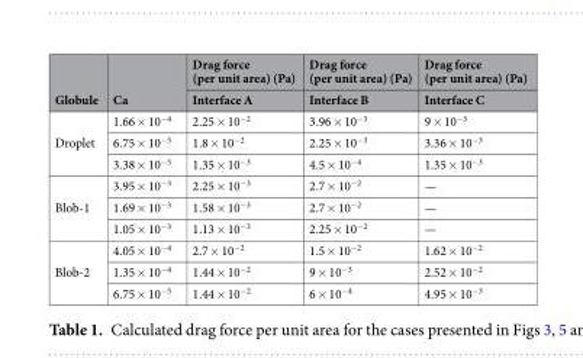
<table><thead><tr><td rowspan="2">Globule</td><td rowspan="2">Ca</td><td rowspan="2">Drag force (per unit area) (Pa) Interface A</td><td rowspan="2">Drag force (per unit area) (Pa) Interface B</td><td rowspan="2">Drag force (per unit area) (Pa) Interface C</td></tr><tr></tr></thead><tbody><tr><td rowspan="3">Droplet</td><td>1.66 × 10<sup>−4</sup></td><td>2.25 × 10<sup>−2</sup></td><td>3.96 × 10<sup>−3</sup></td><td>9 × 10<sup>−3</sup></td></tr><tr><td>6.75 × 10<sup>−5</sup></td><td>1.8 × 10<sup>−2</sup></td><td>2.25 × 10<sup>−3</sup></td><td>3.36 × 10<sup>−3</sup></td></tr><tr><td>3.38 × 10<sup>−5</sup></td><td>1.35 × 10<sup>−3</sup></td><td>4.5 × 10<sup>−4</sup></td><td>1.35 × 10<sup>−3</sup></td></tr><tr><td rowspan="3">Blob-1</td><td>3.95 × 10<sup>−3</sup></td><td>2.25 × 10<sup>−3</sup></td><td>2.7 × 10<sup>−2</sup></td><td>—</td></tr><tr><td>1.69 × 10<sup>−3</sup></td><td>1.58 × 10<sup>−3</sup></td><td>2.7 × 10<sup>−2</sup></td><td>—</td></tr><tr><td>1.05 × 10<sup>−3</sup></td><td>1.13 × 10<sup>−3</sup></td><td>2.25 × 10<sup>−2</sup></td><td>—</td></tr><tr><td rowspan="3">Blob-2</td><td>4.05 × 10<sup>−4</sup></td><td>2.7 × 10<sup>−2</sup></td><td>1.5 × 10<sup>−2</sup></td><td>1.62 × 10<sup>−2</sup></td></tr><tr><td>1.35 × 10<sup>−4</sup></td><td>1.44 × 10<sup>−2</sup></td><td>9 × 10<sup>−3</sup></td><td>2.52 × 10<sup>−2</sup></td></tr><tr><td>6.75 × 10<sup>−5</sup></td><td>1.44 × 10<sup>−2</sup></td><td>6 × 10<sup>−4</sup></td><td>4.95 × 10<sup>−3</sup></td></tr></tbody></table>